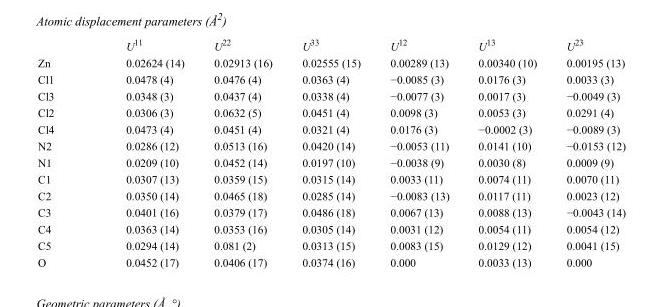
<table><thead><tr><td></td><td>U<sup>11</sup></td><td>U<sup>22</sup></td><td>U<sup>33</sup></td><td>U<sup>12</sup></td><td>U<sup>13</sup></td><td>U<sup>23</sup></td></tr></thead><tbody><tr><td>Zn</td><td>0.02624 (14)</td><td>0.02913 (16)</td><td>0.02555 (15)</td><td>0.00289 (13)</td><td>0.00340 (10)</td><td>0.00195 (13)</td></tr><tr><td>Cl1</td><td>0.0478 (4)</td><td>0.0476 (4)</td><td>0.0363 (4)</td><td>−0.0085 (3)</td><td>0.0176 (3)</td><td>0.0033 (3)</td></tr><tr><td>Cl3</td><td>0.0348 (3)</td><td>0.0437 (4)</td><td>0.0338 (4)</td><td>−0.0077 (3)</td><td>0.0017 (3)</td><td>−0.0049 (3)</td></tr><tr><td>Cl2</td><td>0.0306 (3)</td><td>0.0632 (5)</td><td>0.0451 (4)</td><td>0.0098 (3)</td><td>0.0053 (3)</td><td>0.0291 (4)</td></tr><tr><td>Cl4</td><td>0.0473 (4)</td><td>0.0451 (4)</td><td>0.0321 (4)</td><td>0.0176 (3)</td><td>−0.0002 (3)</td><td>−0.0089 (3)</td></tr><tr><td>N2</td><td>0.0286 (12)</td><td>0.0513 (16)</td><td>0.0420 (14)</td><td>−0.0053 (11)</td><td>0.0141 (10)</td><td>−0.0153 (12)</td></tr><tr><td>N1</td><td>0.0209 (10)</td><td>0.0452 (14)</td><td>0.0197 (10)</td><td>−0.0038 (9)</td><td>0.0030 (8)</td><td>0.0009 (9)</td></tr><tr><td>C1</td><td>0.0307 (13)</td><td>0.0359 (15)</td><td>0.0315 (14)</td><td>0.0033 (11)</td><td>0.0074 (11)</td><td>0.0070 (11)</td></tr><tr><td>C2</td><td>0.0350 (14)</td><td>0.0465 (18)</td><td>0.0285 (14)</td><td>−0.0083 (13)</td><td>0.0117 (11)</td><td>0.0023 (12)</td></tr><tr><td>C3</td><td>0.0401 (16)</td><td>0.0379 (17)</td><td>0.0486 (18)</td><td>0.0067 (13)</td><td>0.0088 (13)</td><td>−0.0043 (14)</td></tr><tr><td>C4</td><td>0.0363 (14)</td><td>0.0353 (16)</td><td>0.0305 (14)</td><td>0.0031 (12)</td><td>0.0054 (11)</td><td>0.0054 (12)</td></tr><tr><td>C5</td><td>0.0294 (14)</td><td>0.081 (2)</td><td>0.0313 (15)</td><td>0.0083 (15)</td><td>0.0129 (12)</td><td>0.0041 (15)</td></tr><tr><td>O</td><td>0.0452 (17)</td><td>0.0406 (17)</td><td>0.0374 (16)</td><td>0.000</td><td>0.0033 (13)</td><td>0.000</td></tr></tbody></table>